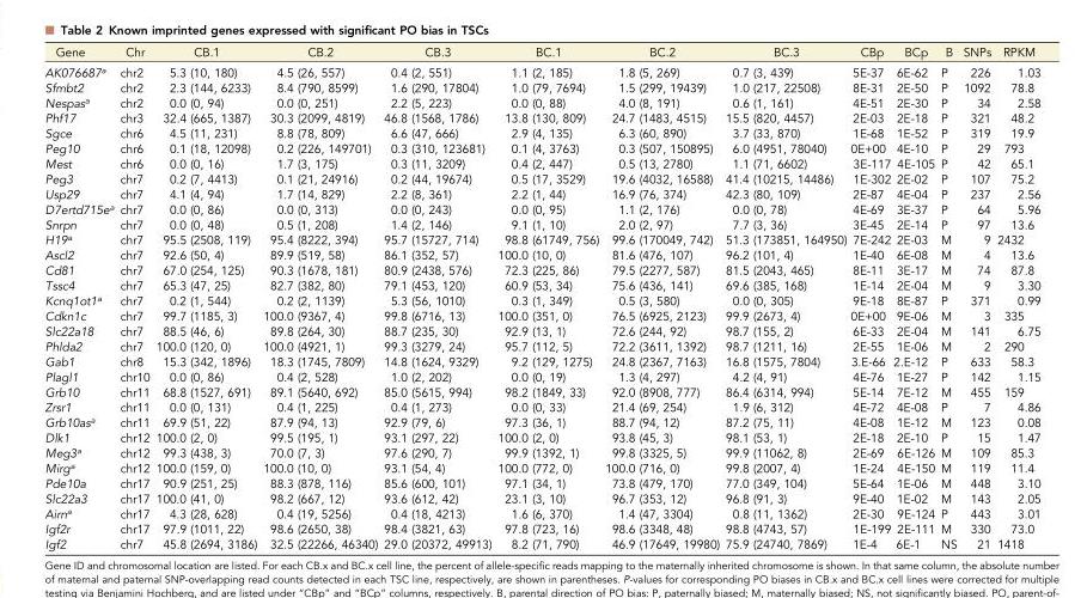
<table><thead><tr><td>Gene</td><td>Chr</td><td>CB.1</td><td>CB.2</td><td>CB.3</td><td>BC.1</td><td>BC.2</td><td>BC.3</td><td>CBp</td><td>BCp</td><td>B</td><td>SNPs</td><td>RPKM</td></tr></thead><tbody><tr><td>AK076687<sup>a</sup></td><td>chr2</td><td>5.3 (10, 180)</td><td>4.5 (26, 557)</td><td>0.4 (2, 551)</td><td>1.1 (2, 185)</td><td>1.8 (5, 269)</td><td>0.7 (3, 439)</td><td>5E-37</td><td>6E-62</td><td>P</td><td>226</td><td>1.03</td></tr><tr><td>Sfmbt2</td><td>chr2</td><td>2.3 (144, 6233)</td><td>8.4 (790, 8599)</td><td>1.6 (290, 17804)</td><td>1.0 (79, 7694)</td><td>1.5 (299, 19439)</td><td>1.0 (217, 22508)</td><td>8E-31</td><td>2E-50</td><td>P</td><td>1092</td><td>78.8</td></tr><tr><td>Nespas<sup>a</sup></td><td>chr2</td><td>0.0 (0, 94)</td><td>0.0 (0, 251)</td><td>2.2 (5, 223)</td><td>0.0 (0, 88)</td><td>4.0 (8, 191)</td><td>0.6 (1, 161)</td><td>4E-51</td><td>2E-30</td><td>P</td><td>34</td><td>2.58</td></tr><tr><td>Phf17</td><td>chr3</td><td>32.4 (665, 1387)</td><td>30.3 (2099, 4819)</td><td>46.8 (1568, 1786)</td><td>13.8 (130, 809)</td><td>24.7 (1483, 4515)</td><td>15.5 (820, 4457)</td><td>2E-03</td><td>2E-18</td><td>P</td><td>321</td><td>48.2</td></tr><tr><td>Sgce</td><td>chr6</td><td>4.5 (11, 231)</td><td>8.8 (78, 809)</td><td>6.6 (47, 666)</td><td>2.9 (4, 135)</td><td>6.3 (60, 890)</td><td>3.7 (33, 870)</td><td>1E-68</td><td>1E-52</td><td>P</td><td>319</td><td>19.9</td></tr><tr><td>Peg10</td><td>chr6</td><td>0.1 (18, 12098)</td><td>0.2 (226, 149701)</td><td>0.3 (310, 123681)</td><td>0.1 (4, 3763)</td><td>0.3 (507, 150895)</td><td>6.0 (4951, 78040)</td><td>0E+00</td><td>4E-10</td><td>P</td><td>29</td><td>793</td></tr><tr><td>Mest</td><td>chr6</td><td>0.0 (0, 16)</td><td>1.7 (3, 175)</td><td>0.3 (11, 3209)</td><td>0.4 (2, 447)</td><td>0.5 (13, 2780)</td><td>1.1 (71, 6602)</td><td>3E-117</td><td>4E-105</td><td>P</td><td>42</td><td>65.1</td></tr><tr><td>Peg3</td><td>chr7</td><td>0.2 (7, 4413)</td><td>0.1 (21, 24916)</td><td>0.2 (44, 19674)</td><td>0.5 (17, 3529)</td><td>19.6 (4032, 16588)</td><td>41.4 (10215, 14486)</td><td>1E-302</td><td>2E-02</td><td>P</td><td>107</td><td>75.2</td></tr><tr><td>Usp29</td><td>chr7</td><td>4.1 (4, 94)</td><td>1.7 (14, 829)</td><td>2.2 (8, 361)</td><td>2.2 (1, 44)</td><td>16.9 (76, 374)</td><td>42.3 (80, 109)</td><td>2E-87</td><td>4E-04</td><td>P</td><td>237</td><td>2.56</td></tr><tr><td>D7ertd715e<sup>a</sup></td><td>chr7</td><td>0.0 (0, 86)</td><td>0.0 (0, 313)</td><td>0.0 (0, 243)</td><td>0.0 (0, 95)</td><td>1.1 (2, 176)</td><td>0.0 (0, 78)</td><td>4E-69</td><td>3E-37</td><td>P</td><td>64</td><td>5.96</td></tr><tr><td>Snrpn</td><td>chr7</td><td>0.0 (0, 48)</td><td>0.5 (1, 208)</td><td>1.4 (2, 146)</td><td>9.1 (1, 10)</td><td>2.0 (2, 97)</td><td>7.7 (3, 36)</td><td>3E-45</td><td>2E-14</td><td>P</td><td>97</td><td>13.6</td></tr><tr><td>H19<sup>a</sup></td><td>chr7</td><td>95.5 (2508, 119)</td><td>95.4 (8222, 394)</td><td>95.7 (15727, 714)</td><td>98.8 (61749, 756)</td><td>99.6 (170049, 742)</td><td>51.3 (173851, 164950)</td><td>7E-242</td><td>2E-03</td><td>M</td><td>9</td><td>2432</td></tr><tr><td>Ascl2</td><td>chr7</td><td>92.6 (50, 4)</td><td>89.9 (519, 58)</td><td>86.1 (352, 57)</td><td>100.0 (10, 0)</td><td>81.6 (476, 107)</td><td>96.2 (101, 4)</td><td>1E-40</td><td>6E-08</td><td>M</td><td>4</td><td>13.6</td></tr><tr><td>Cd81</td><td>chr7</td><td>67.0 (254, 125)</td><td>90.3 (1678, 181)</td><td>80.9 (2438, 576)</td><td>72.3 (225, 86)</td><td>79.5 (2277, 587)</td><td>81.5 (2043, 465)</td><td>8E-11</td><td>3E-17</td><td>M</td><td>74</td><td>87.8</td></tr><tr><td>Tssc4</td><td>chr7</td><td>65.3 (47, 25)</td><td>82.7 (382, 80)</td><td>79.1 (453, 120)</td><td>60.9 (53, 34)</td><td>75.6 (436, 141)</td><td>69.6 (385, 168)</td><td>1E-14</td><td>2E-04</td><td>M</td><td>9</td><td>3.30</td></tr><tr><td>Kcnq1ot1<sup>a</sup></td><td>chr7</td><td>0.2 (1, 544)</td><td>0.2 (2, 1139)</td><td>5.3 (56, 1010)</td><td>0.3 (1, 349)</td><td>0.5 (3, 580)</td><td>0.0 (0, 305)</td><td>9E-18</td><td>8E-87</td><td>P</td><td>371</td><td>0.99</td></tr><tr><td>Cdkn1c</td><td>chr7</td><td>99.7 (1185, 3)</td><td>100.0 (9367, 4)</td><td>99.8 (6716, 13)</td><td>100.0 (351, 0)</td><td>76.5 (6925, 2123)</td><td>99.9 (2673, 4)</td><td>0E+00</td><td>9E-06</td><td>M</td><td>3</td><td>335</td></tr><tr><td>Slc22a18</td><td>chr7</td><td>88.5 (46, 6)</td><td>89.8 (264, 30)</td><td>88.7 (235, 30)</td><td>92.9 (13, 1)</td><td>72.6 (244, 92)</td><td>98.7 (155, 2)</td><td>6E-33</td><td>2E-04</td><td>M</td><td>141</td><td>6.75</td></tr><tr><td>Phlda2</td><td>chr7</td><td>100.0 (120, 0)</td><td>100.0 (4921, 1)</td><td>99.3 (3279, 24)</td><td>95.7 (112, 5)</td><td>72.2 (3611, 1392)</td><td>98.7 (1211, 16)</td><td>2E-55</td><td>1E-06</td><td>M</td><td>2</td><td>290</td></tr><tr><td>Gab1</td><td>chr8</td><td>15.3 (342, 1896)</td><td>18.3 (1745, 7809)</td><td>14.8 (1624, 9329)</td><td>9.2 (129, 1275)</td><td>24.8 (2367, 7163)</td><td>16.8 (1575, 7804)</td><td>3.E-66</td><td>2.E-12</td><td>P</td><td>633</td><td>58.3</td></tr><tr><td>Plagl1</td><td>chr10</td><td>0.0 (0, 86)</td><td>0.4 (2, 528)</td><td>1.0 (2, 202)</td><td>0.0 (0, 19)</td><td>1.3 (4, 297)</td><td>4.2 (4, 91)</td><td>4E-76</td><td>1E-27</td><td>P</td><td>142</td><td>1.15</td></tr><tr><td>Grb10</td><td>chr11</td><td>68.8 (1527, 691)</td><td>89.1 (5640, 692)</td><td>85.0 (5615, 994)</td><td>98.2 (1849, 33)</td><td>92.0 (8908, 777)</td><td>86.4 (6314, 994)</td><td>5E-14</td><td>7E-12</td><td>M</td><td>455</td><td>159</td></tr><tr><td>Zrsr1</td><td>chr11</td><td>0.0 (0, 131)</td><td>0.4 (1, 225)</td><td>0.4 (1, 273)</td><td>0.0 (0, 33)</td><td>21.4 (69, 254)</td><td>1.9 (6, 312)</td><td>4E-72</td><td>4E-08</td><td>P</td><td>7</td><td>4.86</td></tr><tr><td>Grb10as<sup>a</sup></td><td>chr11</td><td>69.9 (51, 22)</td><td>87.9 (94, 13)</td><td>92.9 (79, 6)</td><td>97.3 (36, 1)</td><td>88.7 (94, 12)</td><td>87.2 (75, 11)</td><td>4E-08</td><td>1E-12</td><td>M</td><td>123</td><td>0.08</td></tr><tr><td>Dlk1</td><td>chr12</td><td>100.0 (2, 0)</td><td>99.5 (195, 1)</td><td>93.1 (297, 22)</td><td>100.0 (2, 0)</td><td>93.8 (45, 3)</td><td>98.1 (53, 1)</td><td>2E-18</td><td>2E-10</td><td>P</td><td>15</td><td>1.47</td></tr><tr><td>Meg3<sup>a</sup></td><td>chr12</td><td>99.3 (438, 3)</td><td>70.0 (7, 3)</td><td>97.6 (290, 7)</td><td>99.9 (1392, 1)</td><td>99.8 (3325, 5)</td><td>99.9 (11062, 8)</td><td>2E-69</td><td>6E-126</td><td>M</td><td>109</td><td>85.3</td></tr><tr><td>Mirg<sup>a</sup></td><td>chr12</td><td>100.0 (159, 0)</td><td>100.0 (10, 0)</td><td>93.1 (54, 4)</td><td>100.0 (772, 0)</td><td>100.0 (716, 0)</td><td>99.8 (2007, 4)</td><td>1E-24</td><td>4E-150</td><td>M</td><td>119</td><td>11.4</td></tr><tr><td>Pde10a</td><td>chr17</td><td>90.9 (251, 25)</td><td>88.3 (878, 116)</td><td>85.6 (600, 101)</td><td>97.1 (34, 1)</td><td>73.8 (479, 170)</td><td>77.0 (349, 104)</td><td>5E-64</td><td>1E-06</td><td>M</td><td>448</td><td>3.10</td></tr><tr><td>Slc22a3</td><td>chr17</td><td>100.0 (41, 0)</td><td>98.2 (667, 12)</td><td>93.6 (612, 42)</td><td>23.1 (3, 10)</td><td>96.7 (353, 12)</td><td>96.8 (91, 3)</td><td>9E-40</td><td>1E-02</td><td>M</td><td>143</td><td>2.05</td></tr><tr><td>Airn<sup>a</sup></td><td>chr17</td><td>4.3 (28, 628)</td><td>0.4 (19, 5256)</td><td>0.4 (18, 4213)</td><td>1.6 (6, 370)</td><td>1.4 (47, 3304)</td><td>0.8 (11, 1362)</td><td>2E-30</td><td>9E-124</td><td>P</td><td>443</td><td>3.01</td></tr><tr><td>Igf2r</td><td>chr17</td><td>97.9 (1011, 22)</td><td>98.6 (2650, 38)</td><td>98.4 (3821, 63)</td><td>97.8 (723, 16)</td><td>98.6 (3348, 48)</td><td>98.8 (4743, 57)</td><td>1E-199</td><td>2E-111</td><td>M</td><td>330</td><td>73.0</td></tr><tr><td>Igf2</td><td>chr7</td><td>45.8 (2694, 3186)</td><td>32.5 (22266, 46340)</td><td>29.0 (20372, 49913)</td><td>8.2 (71, 790)</td><td>46.9 (17649, 19980)</td><td>75.9 (24740, 7869)</td><td>1E-4</td><td>6E-1</td><td>NS</td><td>21</td><td>1418</td></tr></tbody></table>